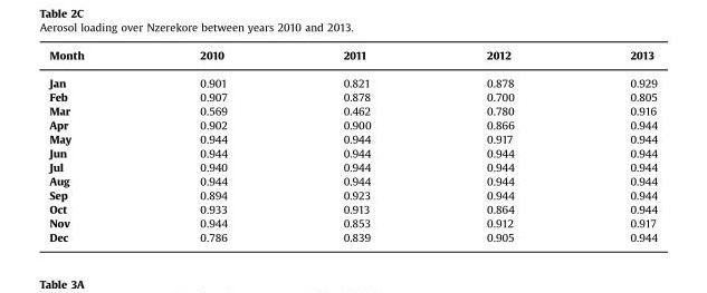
<table><thead><tr><td>Month</td><td>2010</td><td>2011</td><td>2012</td><td>2013</td></tr></thead><tbody><tr><td>Jan</td><td>0.901</td><td>0.821</td><td>0.878</td><td>0.929</td></tr><tr><td>Feb</td><td>0.907</td><td>0.878</td><td>0.700</td><td>0.805</td></tr><tr><td>Mar</td><td>0.569</td><td>0.462</td><td>0.780</td><td>0.916</td></tr><tr><td>Apr</td><td>0.902</td><td>0.900</td><td>0.866</td><td>0.944</td></tr><tr><td>May</td><td>0.944</td><td>0.944</td><td>0.917</td><td>0.944</td></tr><tr><td>Jun</td><td>0.944</td><td>0.944</td><td>0.944</td><td>0.944</td></tr><tr><td>Jul</td><td>0.940</td><td>0.944</td><td>0.944</td><td>0.944</td></tr><tr><td>Aug</td><td>0.944</td><td>0.944</td><td>0.944</td><td>0.944</td></tr><tr><td>Sep</td><td>0.894</td><td>0.923</td><td>0.944</td><td>0.944</td></tr><tr><td>Oct</td><td>0.933</td><td>0.913</td><td>0.864</td><td>0.944</td></tr><tr><td>Nov</td><td>0.944</td><td>0.853</td><td>0.912</td><td>0.917</td></tr><tr><td>Dec</td><td>0.786</td><td>0.839</td><td>0.905</td><td>0.944</td></tr></tbody></table>